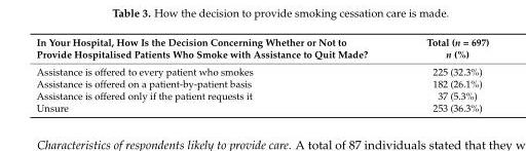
<table><thead><tr><td>In Your Hospital, How Is the Decision Concerning Whether or Not to Provide Hospitalised Patients Who Smoke with Assistance to Quit Made?</td><td>Total (n = 697) n (%)</td></tr></thead><tbody><tr><td>Assistance is offered to every patient who smokes</td><td>225 (32.3%)</td></tr><tr><td>Assistance is offered on a patient-by-patient basis</td><td>182 (26.1%)</td></tr><tr><td>Assistance is offered only if the patient requests it</td><td>37 (5.3%)</td></tr><tr><td>Unsure</td><td>253 (36.3%)</td></tr></tbody></table>